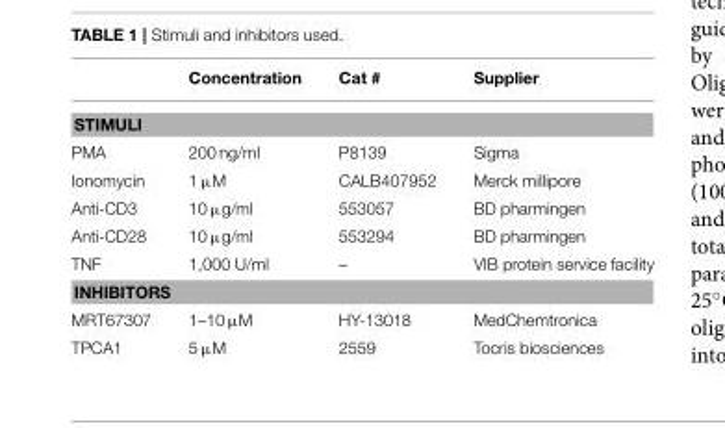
<table><thead><tr><td></td><td>Concentration</td><td>Cat #</td><td>Supplier</td></tr></thead><tbody><tr><td colspan="4">STIMULI</td></tr><tr><td>PMA</td><td>200 ng/ml</td><td>P8139</td><td>Sigma</td></tr><tr><td>Ionomycin</td><td>1 µM</td><td>CALB407952</td><td>Merck millipore</td></tr><tr><td>Anti-CD3</td><td>10 µg/ml</td><td>553057</td><td>BD pharmingen</td></tr><tr><td>Anti-CD28</td><td>10 µg/ml</td><td>553294</td><td>BD pharmingen</td></tr><tr><td>TNF</td><td>1,000 U/ml</td><td>–</td><td>VIB protein service facility</td></tr><tr><td colspan="4">INHIBITORS</td></tr><tr><td>MRT67307</td><td>1–10 µM</td><td>HY-13018</td><td>MedChemtronica</td></tr><tr><td>TPCA1</td><td>5 µM</td><td>2559</td><td>Tocris biosciences</td></tr></tbody></table>